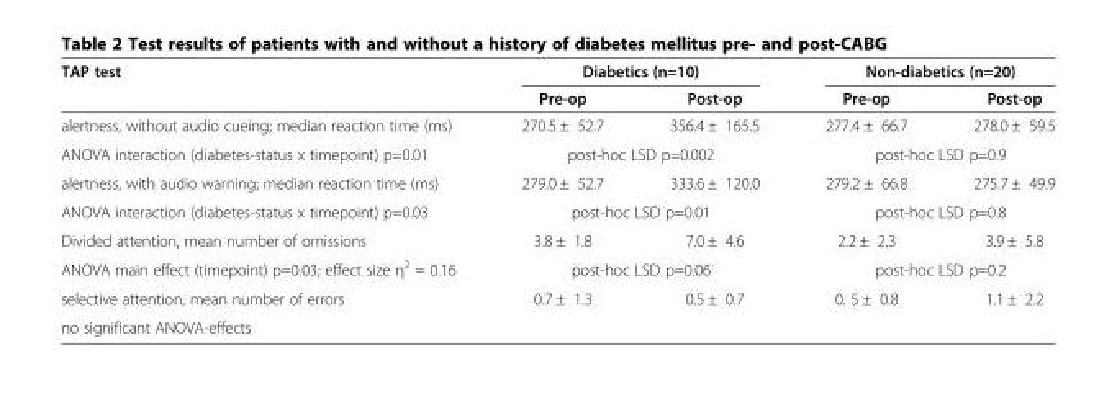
<table><thead><tr><td rowspan="2">TAP test</td><td colspan="2">Diabetics (n=10)</td><td colspan="2">Non-diabetics (n=20)</td></tr><tr><td>Pre-op</td><td>Post-op</td><td>Pre-op</td><td>Post-op</td></tr></thead><tbody><tr><td>alertness, without audio cueing; median reaction time (ms)</td><td>270.5 ± 52.7</td><td>356.4 ± 165.5</td><td>277.4 ± 66.7</td><td>278.0 ± 59.5</td></tr><tr><td>ANOVA interaction (diabetes-status x timepoint) p=0.01</td><td colspan="2">post-hoc LSD p=0.002</td><td colspan="2">post-hoc LSD p=0.9</td></tr><tr><td>alertness, with audio warning; median reaction time (ms)</td><td>279.0 ± 52.7</td><td>333.6 ± 120.0</td><td>279.2 ± 66.8</td><td>275.7 ± 49.9</td></tr><tr><td>ANOVA interaction (diabetes-status x timepoint) p=0.03</td><td colspan="2">post-hoc LSD p=0.01</td><td colspan="2">post-hoc LSD p=0.8</td></tr><tr><td>Divided attention, mean number of omissions</td><td>3.8 ± 1.8</td><td>7.0 ± 4.6</td><td>2.2 ± 2.3</td><td>3.9 ± 5.8</td></tr><tr><td>ANOVA main effect (timepoint) p=0.03; effect size η<sup>2</sup> = 0.16</td><td colspan="2">post-hoc LSD p=0.06</td><td colspan="2">post-hoc LSD p=0.2</td></tr><tr><td>selective attention, mean number of errors</td><td>0.7 ± 1.3</td><td>0.5 ± 0.7</td><td>0. 5 ± 0.8</td><td>1.1 ± 2.2</td></tr><tr><td>no significant ANOVA-effects</td><td colspan="4"></td></tr></tbody></table>